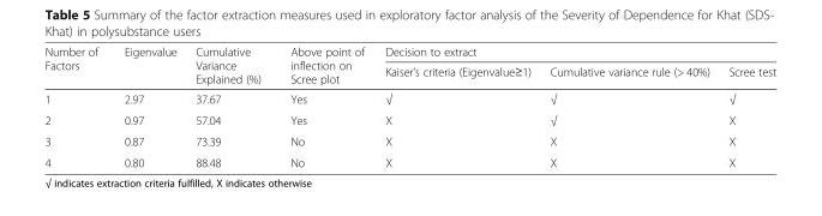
<table><thead><tr><td rowspan="2">Number of Factors</td><td rowspan="2">Eigenvalue</td><td rowspan="2">Cumulative Variance Explained (%)</td><td rowspan="2">Above point of inflection on Scree plot</td><td colspan="3">Decision to extract</td></tr><tr><td>Kaiser’s criteria (Eigenvalue≥1)</td><td>Cumulative variance rule (&gt; 40%)</td><td>Scree test</td></tr></thead><tbody><tr><td>1</td><td>2.97</td><td>37.67</td><td>Yes</td><td>√</td><td>√</td><td>√</td></tr><tr><td>2</td><td>0.97</td><td>57.04</td><td>Yes</td><td>Χ</td><td>√</td><td>Χ</td></tr><tr><td>3</td><td>0.87</td><td>73.39</td><td>No</td><td>Χ</td><td>Χ</td><td>Χ</td></tr><tr><td>4</td><td>0.80</td><td>88.48</td><td>No</td><td>Χ</td><td>Χ</td><td>Χ</td></tr></tbody></table>